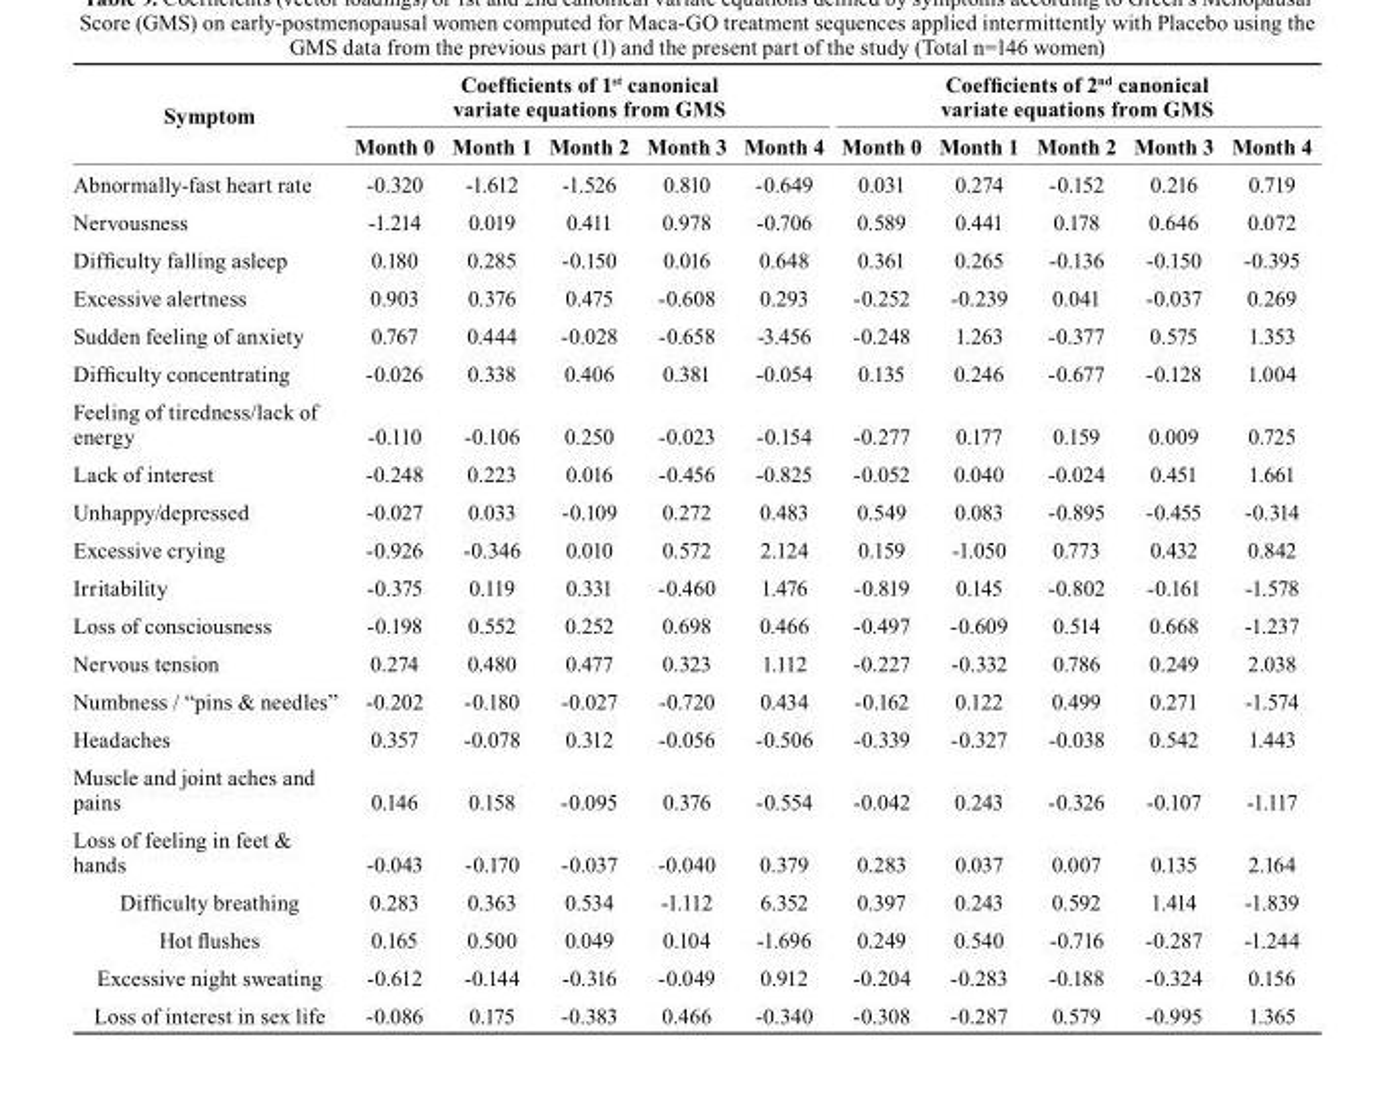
<table><thead><tr><td rowspan="2">symptom</td><td colspan="5">Coefficients of 1<sup>st</sup> canonical variate equations from GMS</td><td colspan="5">Coefficients of 2<sup>nd</sup> canonical variate equations from GMS</td></tr><tr><td>Month 0</td><td>Month 1</td><td>Month 2</td><td>Month 3</td><td>Month 4</td><td>Month 0</td><td>Month 1</td><td>Month 2</td><td>Month 3</td><td>Month 4</td></tr></thead><tbody><tr><td>Abnormally-fast heart rate</td><td>-0.320</td><td>-1.612</td><td>-1.526</td><td>0.810</td><td>-0.649</td><td>0.031</td><td>0.274</td><td>-0.152</td><td>0.216</td><td>0.719</td></tr><tr><td>Nervousness</td><td>-1.214</td><td>0.019</td><td>0.411</td><td>0.978</td><td>-0.706</td><td>0.589</td><td>0.441</td><td>0.178</td><td>0.646</td><td>0.072</td></tr><tr><td>Difficulty falling asleep</td><td>0.180</td><td>0.285</td><td>-0.150</td><td>0.016</td><td>0.648</td><td>0.361</td><td>0.265</td><td>-0.136</td><td>-0.150</td><td>-0.395</td></tr><tr><td>Excessive alertness</td><td>0.903</td><td>0.376</td><td>0.475</td><td>-0.608</td><td>0.293</td><td>-0.252</td><td>-0.239</td><td>0.041</td><td>-0.037</td><td>0.269</td></tr><tr><td>Sudden feeling of anxiety</td><td>0.767</td><td>0.444</td><td>-0.028</td><td>-0.658</td><td>-3.456</td><td>-0.248</td><td>1.263</td><td>-0.377</td><td>0.575</td><td>1.353</td></tr><tr><td>Difficulty concentrating</td><td>-0.026</td><td>0.338</td><td>0.406</td><td>0.381</td><td>-0.054</td><td>0.135</td><td>0.246</td><td>-0.677</td><td>-0.128</td><td>1.004</td></tr><tr><td>Feeling of tiredness/lack of energy</td><td>-0.110</td><td>-0.106</td><td>0.250</td><td>-0.023</td><td>-0.154</td><td>-0.277</td><td>0.177</td><td>0.159</td><td>0.009</td><td>0.725</td></tr><tr><td>Lack of interest</td><td>-0.248</td><td>0.223</td><td>0.016</td><td>-0.456</td><td>-0.825</td><td>-0.052</td><td>0.040</td><td>-0.024</td><td>0.451</td><td>1.661</td></tr><tr><td>Unhappy/depressed</td><td>-0.027</td><td>0.033</td><td>-0.109</td><td>0.272</td><td>0.483</td><td>0.549</td><td>0.083</td><td>-0.895</td><td>-0.455</td><td>-0.314</td></tr><tr><td>Excessive crying</td><td>-0.926</td><td>-0.346</td><td>0.010</td><td>0.572</td><td>2.124</td><td>0.159</td><td>-1.050</td><td>0.773</td><td>0.432</td><td>0.842</td></tr><tr><td>Irritability</td><td>-0.375</td><td>0.119</td><td>0.331</td><td>-0.460</td><td>1.476</td><td>-0.819</td><td>0.145</td><td>-0.802</td><td>-0.161</td><td>-1.578</td></tr><tr><td>Loss of consciousness</td><td>-0.198</td><td>0.552</td><td>0.252</td><td>0.698</td><td>0.466</td><td>-0.497</td><td>-0.609</td><td>0.514</td><td>0.668</td><td>-1.237</td></tr><tr><td>Nervous tension</td><td>0.274</td><td>0.480</td><td>0.477</td><td>0.323</td><td>1.112</td><td>-0.227</td><td>-0.332</td><td>0.786</td><td>0.249</td><td>2.038</td></tr><tr><td>Numbness / “pins &amp; needles”</td><td>-0.202</td><td>-0.180</td><td>-0.027</td><td>-0.720</td><td>0.434</td><td>-0.162</td><td>0.122</td><td>0.499</td><td>0.271</td><td>-1.574</td></tr><tr><td>Headaches</td><td>0.357</td><td>-0.078</td><td>0.312</td><td>-0.056</td><td>-0.506</td><td>-0.339</td><td>-0.327</td><td>-0.038</td><td>0.542</td><td>1.443</td></tr><tr><td>Muscle and joint aches and pains</td><td>0.146</td><td>0.158</td><td>-0.095</td><td>0.376</td><td>-0.554</td><td>-0.042</td><td>0.243</td><td>-0.326</td><td>-0.107</td><td>-1.117</td></tr><tr><td>Loss of feeling in feet &amp; hands</td><td>-0.043</td><td>-0.170</td><td>-0.037</td><td>-0.040</td><td>0.379</td><td>0.283</td><td>0.037</td><td>0.007</td><td>0.135</td><td>2.164</td></tr><tr><td>Difficulty breathing</td><td>0.283</td><td>0.363</td><td>0.534</td><td>-1.112</td><td>6.352</td><td>0.397</td><td>0.243</td><td>0.592</td><td>1.414</td><td>-1.839</td></tr><tr><td>Hot flushes</td><td>0.165</td><td>0.500</td><td>0.049</td><td>0.104</td><td>-1.696</td><td>0.249</td><td>0.540</td><td>-0.716</td><td>-0.287</td><td>-1.244</td></tr><tr><td>Excessive night sweating</td><td>-0.612</td><td>-0.144</td><td>-0.316</td><td>-0.049</td><td>0.912</td><td>-0.204</td><td>-0.283</td><td>-0.188</td><td>-0.324</td><td>0.156</td></tr><tr><td>Loss of interest in sex life</td><td>-0.086</td><td>0.175</td><td>-0.383</td><td>0.466</td><td>-0.340</td><td>-0.308</td><td>-0.287</td><td>0.579</td><td>-0.995</td><td>1.365</td></tr></tbody></table>